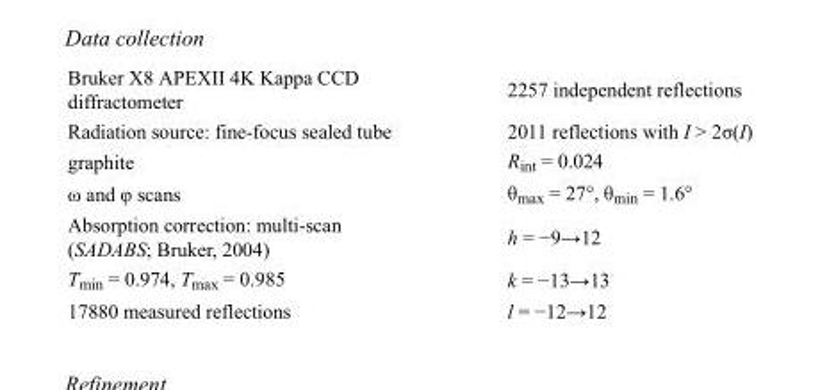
<table><tbody><tr><td>Bruker X8 APEXII 4K Kappa CCD diffractometer</td><td>2257 independent reflections</td></tr><tr><td>Radiation source: fine-focus sealed tube</td><td>2011 reflections with I &gt; 2σ(I)</td></tr><tr><td>graphite</td><td>R<sub>int</sub> = 0.024</td></tr><tr><td>ω and φ scans</td><td>θ<sub>max</sub> = 27°, θ<sub>min</sub> = 1.6°</td></tr><tr><td>Absorption correction: multi-scan (SADABS; Bruker, 2004)</td><td>h = −9→12</td></tr><tr><td>T<sub>min</sub> = 0.974, T<sub>max</sub> = 0.985</td><td>k = −13→13</td></tr><tr><td>17880 measured reflections</td><td>l = −12→12</td></tr></tbody></table>